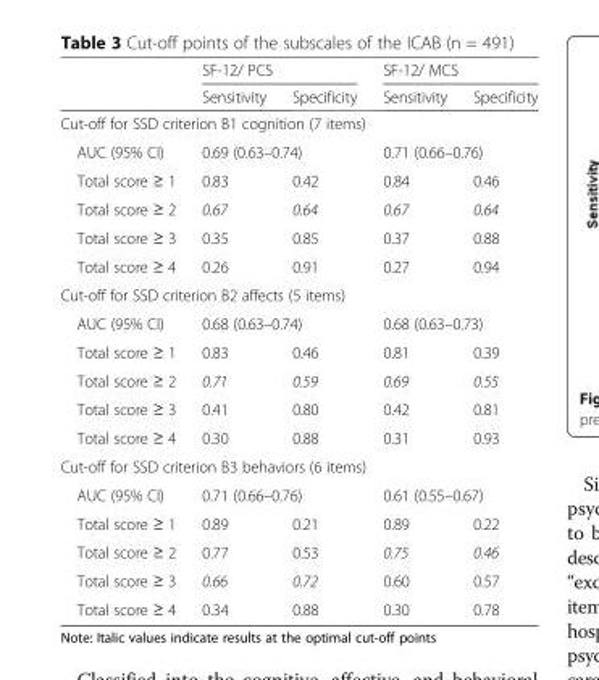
<table><thead><tr><td rowspan="2"></td><td colspan="2">SF-12/ PCS</td><td colspan="2">SF-12/ MCS</td></tr><tr><td>Sensitivity</td><td>Specificity</td><td>Sensitivity</td><td>Specificity</td></tr></thead><tbody><tr><td colspan="5">Cut-off for SSD criterion B1 cognition (7 items)</td></tr><tr><td>AUC (95% CI)</td><td colspan="2">0.69 (0.63–0.74)</td><td colspan="2">0.71 (0.66–0.76)</td></tr><tr><td>Total score ≥ 1</td><td>0.83</td><td>0.42</td><td>0.84</td><td>0.46</td></tr><tr><td>Total score ≥ 2</td><td>0.67</td><td>0.64</td><td>0.67</td><td>0.64</td></tr><tr><td>Total score ≥ 3</td><td>0.35</td><td>0.85</td><td>0.37</td><td>0.88</td></tr><tr><td>Total score ≥ 4</td><td>0.26</td><td>0.91</td><td>0.27</td><td>0.94</td></tr><tr><td colspan="5">Cut-off for SSD criterion B2 affects (5 items)</td></tr><tr><td>AUC (95% CI)</td><td colspan="2">0.68 (0.63–0.74)</td><td colspan="2">0.68 (0.63–0.73)</td></tr><tr><td>Total score ≥ 1</td><td>0.83</td><td>0.46</td><td>0.81</td><td>0.39</td></tr><tr><td>Total score ≥ 2</td><td>0.71</td><td>0.59</td><td>0.69</td><td>0.55</td></tr><tr><td>Total score ≥ 3</td><td>0.41</td><td>0.80</td><td>0.42</td><td>0.81</td></tr><tr><td>Total score ≥ 4</td><td>0.30</td><td>0.88</td><td>0.31</td><td>0.93</td></tr><tr><td colspan="5">Cut-off for SSD criterion B3 behaviors (6 items)</td></tr><tr><td>AUC (95% CI)</td><td colspan="2">0.71 (0.66–0.76)</td><td colspan="2">0.61 (0.55–0.67)</td></tr><tr><td>Total score ≥ 1</td><td>0.89</td><td>0.21</td><td>0.89</td><td>0.22</td></tr><tr><td>Total score ≥ 2</td><td>0.77</td><td>0.53</td><td>0.75</td><td>0.46</td></tr><tr><td>Total score ≥ 3</td><td>0.66</td><td>0.72</td><td>0.60</td><td>0.57</td></tr><tr><td>Total score ≥ 4</td><td>0.34</td><td>0.88</td><td>0.30</td><td>0.78</td></tr></tbody></table>